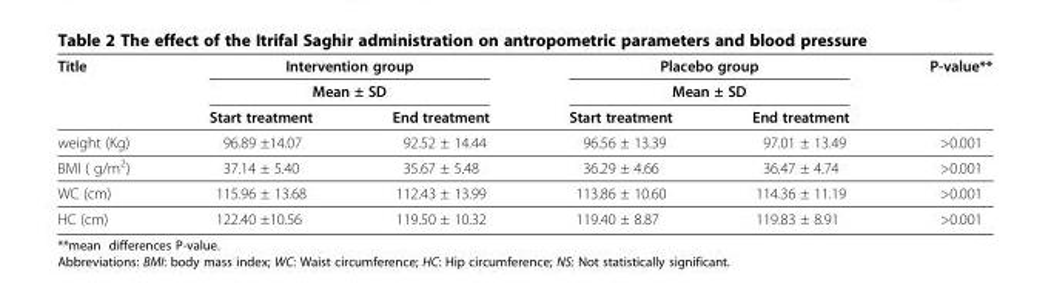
<table><thead><tr><td rowspan="3">Title</td><td rowspan="2" colspan="2">Intervention group Mean ± SD</td><td rowspan="2" colspan="2">Placebo group Mean ± SD</td><td rowspan="3">P-value**</td></tr><tr></tr><tr><td>Start treatment</td><td>End treatment</td><td>Start treatment</td><td>End treatment</td></tr></thead><tbody><tr><td>weight (Kg)</td><td>96.89 ±14.07</td><td>92.52 ± 14.44</td><td>96.56 ± 13.39</td><td>97.01 ± 13.49</td><td>&gt;0.001</td></tr><tr><td>BMI ( g/m<sup>2</sup>)</td><td>37.14 ± 5.40</td><td>35.67 ± 5.48</td><td>36.29 ± 4.66</td><td>36.47 ± 4.74</td><td>&gt;0.001</td></tr><tr><td>WC (cm)</td><td>115.96 ± 13.68</td><td>112.43 ± 13.99</td><td>113.86 ± 10.60</td><td>114.36 ± 11.19</td><td>&gt;0.001</td></tr><tr><td>HC (cm)</td><td>122.40 ±10.56</td><td>119.50 ± 10.32</td><td>119.40 ± 8.87</td><td>119.83 ± 8.91</td><td>&gt;0.001</td></tr></tbody></table>